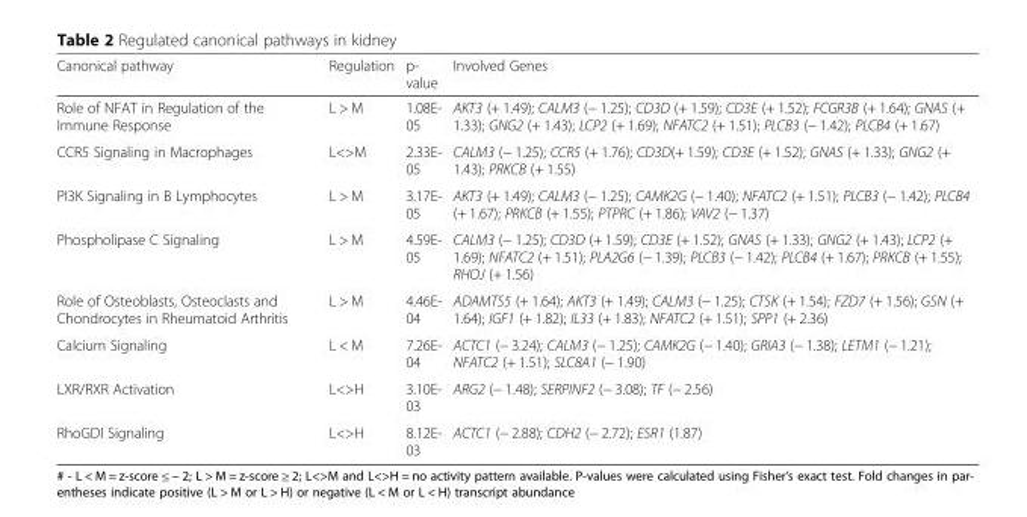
<table><thead><tr><td>Canonical pathway</td><td>Regulation</td><td>p- value</td><td>Involved Genes</td></tr></thead><tbody><tr><td>Role of NFAT in Regulation of the Immune Response</td><td>L &gt; M</td><td>1.08E- 05</td><td>AKT3 (+ 1.49); CALM3 (− 1.25); CD3D (+ 1.59); CD3E (+ 1.52); FCGR3B (+ 1.64); GNAS (+ 1.33); GNG2 (+ 1.43); LCP2 (+ 1.69); NFATC2 (+ 1.51); PLCB3 (− 1.42); PLCB4 (+ 1.67)</td></tr><tr><td>CCR5 Signaling in Macrophages</td><td>L&lt;&gt;M</td><td>2.33E- 05</td><td>CALM3 (− 1.25); CCR5 (+ 1.76); CD3D(+ 1.59); CD3E (+ 1.52); GNAS (+ 1.33); GNG2 (+ 1.43); PRKCB (+ 1.55)</td></tr><tr><td>PI3K Signaling in B Lymphocytes</td><td>L &gt; M</td><td>3.17E- 05</td><td>AKT3 (+ 1.49); CALM3 (− 1.25); CAMK2G (− 1.40); NFATC2 (+ 1.51); PLCB3 (− 1.42); PLCB4 (+ 1.67); PRKCB (+ 1.55); PTPRC (+ 1.86); VAV2 (− 1.37)</td></tr><tr><td>Phospholipase C Signaling</td><td>L &gt; M</td><td>4.59E- 05</td><td>CALM3 (− 1.25); CD3D (+ 1.59); CD3E (+ 1.52); GNAS (+ 1.33); GNG2 (+ 1.43); LCP2 (+ 1.69); NFATC2 (+ 1.51); PLA2G6 (− 1.39); PLCB3 (− 1.42); PLCB4 (+ 1.67); PRKCB (+ 1.55); RHOJ (+ 1.56)</td></tr><tr><td>Role of Osteoblasts, Osteoclasts and Chondrocytes in Rheumatoid Arthritis</td><td>L &gt; M</td><td>4.46E- 04</td><td>ADAMTS5 (+ 1.64); AKT3 (+ 1.49); CALM3 (− 1.25); CTSK (+ 1.54); FZD7 (+ 1.56); GSN (+ 1.64); IGF1 (+ 1.82); IL33 (+ 1.83); NFATC2 (+ 1.51); SPP1 (+ 2.36)</td></tr><tr><td>Calcium Signaling</td><td>L &lt; M</td><td>7.26E- 04</td><td>ACTC1 (− 3.24); CALM3 (− 1.25); CAMK2G (− 1.40); GRIA3 (− 1.38); LETM1 (− 1.21); NFATC2 (+ 1.51); SLC8A1 (− 1.90)</td></tr><tr><td>LXR/RXR Activation</td><td>L&lt;&gt;H</td><td>3.10E- 03</td><td>ARG2 (− 1.48); SERPINF2 (− 3.08); TF (− 2.56)</td></tr><tr><td>RhoGDI Signaling</td><td>L&lt;&gt;H</td><td>8.12E- 03</td><td>ACTC1 (− 2.88); CDH2 (− 2.72); ESR1 (1.87)</td></tr></tbody></table>